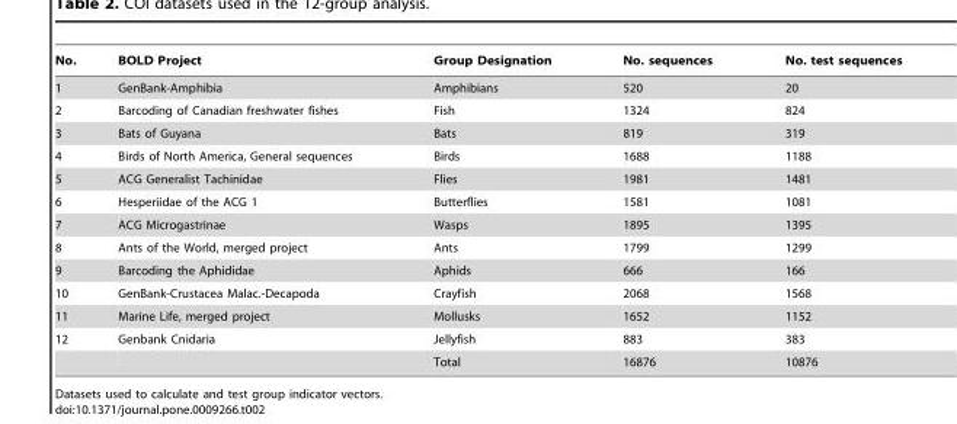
<table><thead><tr><td>No.</td><td>BOLD Project</td><td>Group Designation</td><td>No. sequences</td><td>No. test sequences</td></tr></thead><tbody><tr><td>1</td><td>GenBank-Amphibia</td><td>Amphibians</td><td>520</td><td>20</td></tr><tr><td>2</td><td>Barcoding of Canadian freshwater fishes</td><td>Fish</td><td>1324</td><td>824</td></tr><tr><td>3</td><td>Bats of Guyana</td><td>Bats</td><td>819</td><td>319</td></tr><tr><td>4</td><td>Birds of North America, General sequences</td><td>Birds</td><td>1688</td><td>1188</td></tr><tr><td>5</td><td>ACG Generalist Tachinidae</td><td>Flies</td><td>1981</td><td>1481</td></tr><tr><td>6</td><td>Hesperiidae of the ACG 1</td><td>Butterflies</td><td>1581</td><td>1081</td></tr><tr><td>7</td><td>ACG Microgastrinae</td><td>Wasps</td><td>1895</td><td>1395</td></tr><tr><td>8</td><td>Ants of the World, merged project</td><td>Ants</td><td>1799</td><td>1299</td></tr><tr><td>9</td><td>Barcoding the Aphididae</td><td>Aphids</td><td>666</td><td>166</td></tr><tr><td>10</td><td>GenBank-Crustacea Malac.-Decapoda</td><td>Crayfish</td><td>2068</td><td>1568</td></tr><tr><td>11</td><td>Marine Life, merged project</td><td>Mollusks</td><td>1652</td><td>1152</td></tr><tr><td rowspan="2">12</td><td>Genbank Cnidaria</td><td>Jellyfish</td><td>883</td><td>383</td></tr><tr><td></td><td>Total</td><td>16876</td><td>10876</td></tr></tbody></table>